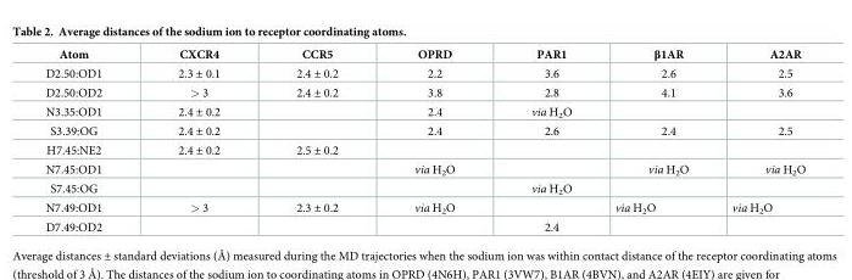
<table><thead><tr><td>Atom</td><td>CXCR4</td><td>CCR5</td><td>OPRD</td><td>PAR1</td><td>β1AR</td><td>A2AR</td></tr></thead><tbody><tr><td>D2.50:OD1</td><td>2.3 ± 0.1</td><td>2.4 ± 0.2</td><td>2.2</td><td>3.6</td><td>2.6</td><td>2.5</td></tr><tr><td>D2.50:OD2</td><td>&gt; 3</td><td>2.4 ± 0.2</td><td>3.8</td><td>2.8</td><td>4.1</td><td>3.6</td></tr><tr><td>N3.35:OD1</td><td>2.4 ± 0.2</td><td></td><td>2.4</td><td>via H<sub>2</sub>O</td><td></td><td></td></tr><tr><td>S3.39:OG</td><td>2.4 ± 0.2</td><td></td><td>2.4</td><td>2.6</td><td>2.4</td><td>2.5</td></tr><tr><td>H7.45:NE2</td><td>2.4 ± 0.2</td><td>2.5 ± 0.2</td><td></td><td></td><td></td><td></td></tr><tr><td>N7.45:OD1</td><td></td><td></td><td>via H<sub>2</sub>O</td><td></td><td>via H<sub>2</sub>O</td><td>via H<sub>2</sub>O</td></tr><tr><td>S7.45:OG</td><td></td><td></td><td></td><td>via H<sub>2</sub>O</td><td></td><td></td></tr><tr><td>N7.49:OD1</td><td>&gt; 3</td><td>2.3 ± 0.2</td><td>via H<sub>2</sub>O</td><td></td><td>via H<sub>2</sub>O</td><td>via H<sub>2</sub>O</td></tr><tr><td>D7.49:OD2</td><td></td><td></td><td></td><td>2.4</td><td></td><td></td></tr></tbody></table>